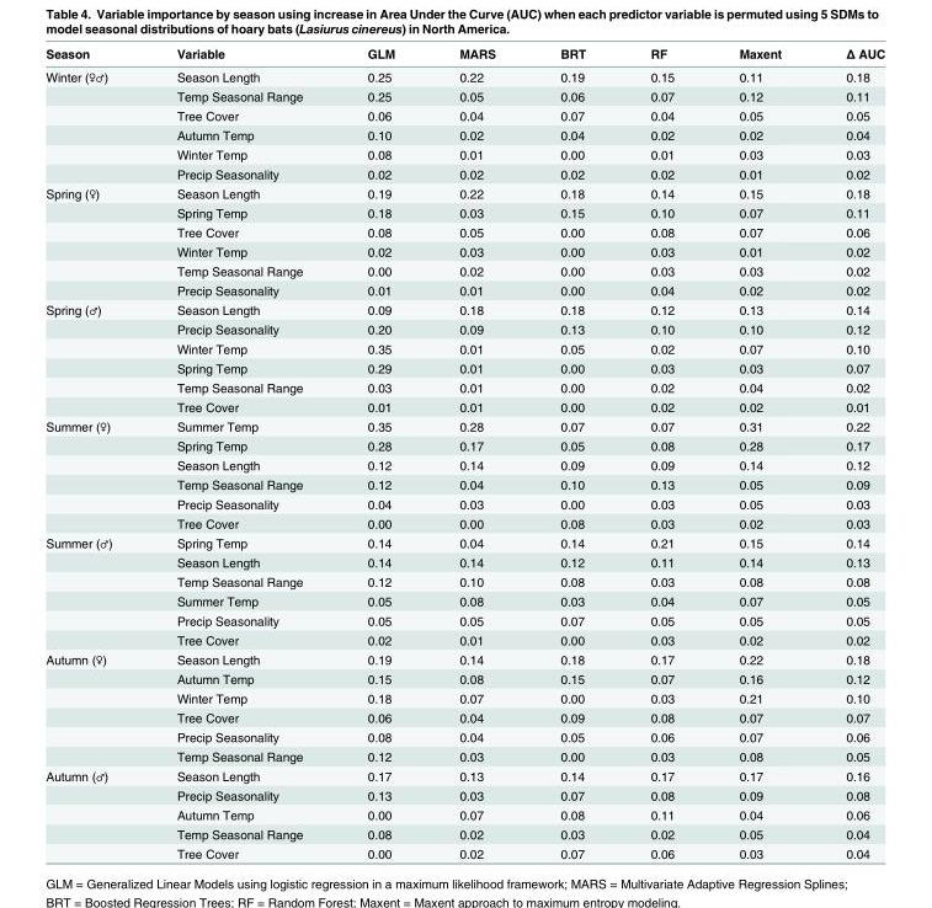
<table><thead><tr><td>Season</td><td>Variable</td><td>GLM</td><td>MARS</td><td>BRT</td><td>RF</td><td>Maxent</td><td>Δ AUC</td></tr></thead><tbody><tr><td rowspan="6">Winter (♀♂)</td><td>Season Length</td><td>0.25</td><td>0.22</td><td>0.19</td><td>0.15</td><td>0.11</td><td>0.18</td></tr><tr><td>Temp Seasonal Range</td><td>0.25</td><td>0.05</td><td>0.06</td><td>0.07</td><td>0.12</td><td>0.11</td></tr><tr><td>Tree Cover</td><td>0.06</td><td>0.04</td><td>0.07</td><td>0.04</td><td>0.05</td><td>0.05</td></tr><tr><td>Autumn Temp</td><td>0.10</td><td>0.02</td><td>0.04</td><td>0.02</td><td>0.02</td><td>0.04</td></tr><tr><td>Winter Temp</td><td>0.08</td><td>0.01</td><td>0.00</td><td>0.01</td><td>0.03</td><td>0.03</td></tr><tr><td>Precip Seasonality</td><td>0.02</td><td>0.02</td><td>0.02</td><td>0.02</td><td>0.01</td><td>0.02</td></tr><tr><td rowspan="6">Spring (♀)</td><td>Season Length</td><td>0.19</td><td>0.22</td><td>0.18</td><td>0.14</td><td>0.15</td><td>0.18</td></tr><tr><td>Spring Temp</td><td>0.18</td><td>0.03</td><td>0.15</td><td>0.10</td><td>0.07</td><td>0.11</td></tr><tr><td>Tree Cover</td><td>0.08</td><td>0.05</td><td>0.00</td><td>0.08</td><td>0.07</td><td>0.06</td></tr><tr><td>Winter Temp</td><td>0.02</td><td>0.03</td><td>0.00</td><td>0.03</td><td>0.01</td><td>0.02</td></tr><tr><td>Temp Seasonal Range</td><td>0.00</td><td>0.02</td><td>0.00</td><td>0.03</td><td>0.03</td><td>0.02</td></tr><tr><td>Precip Seasonality</td><td>0.01</td><td>0.01</td><td>0.00</td><td>0.04</td><td>0.02</td><td>0.02</td></tr><tr><td rowspan="6">Spring (♂)</td><td>Season Length</td><td>0.09</td><td>0.18</td><td>0.18</td><td>0.12</td><td>0.13</td><td>0.14</td></tr><tr><td>Precip Seasonality</td><td>0.20</td><td>0.09</td><td>0.13</td><td>0.10</td><td>0.10</td><td>0.12</td></tr><tr><td>Winter Temp</td><td>0.35</td><td>0.01</td><td>0.05</td><td>0.02</td><td>0.07</td><td>0.10</td></tr><tr><td>Spring Temp</td><td>0.29</td><td>0.01</td><td>0.00</td><td>0.03</td><td>0.03</td><td>0.07</td></tr><tr><td>Temp Seasonal Range</td><td>0.03</td><td>0.01</td><td>0.00</td><td>0.02</td><td>0.04</td><td>0.02</td></tr><tr><td>Tree Cover</td><td>0.01</td><td>0.01</td><td>0.00</td><td>0.02</td><td>0.02</td><td>0.01</td></tr><tr><td rowspan="6">Summer (♀)</td><td>Summer Temp</td><td>0.35</td><td>0.28</td><td>0.07</td><td>0.07</td><td>0.31</td><td>0.22</td></tr><tr><td>Spring Temp</td><td>0.28</td><td>0.17</td><td>0.05</td><td>0.08</td><td>0.28</td><td>0.17</td></tr><tr><td>Season Length</td><td>0.12</td><td>0.14</td><td>0.09</td><td>0.09</td><td>0.14</td><td>0.12</td></tr><tr><td>Temp Seasonal Range</td><td>0.12</td><td>0.04</td><td>0.10</td><td>0.13</td><td>0.05</td><td>0.09</td></tr><tr><td>Precip Seasonality</td><td>0.04</td><td>0.03</td><td>0.00</td><td>0.03</td><td>0.05</td><td>0.03</td></tr><tr><td>Tree Cover</td><td>0.00</td><td>0.00</td><td>0.08</td><td>0.03</td><td>0.02</td><td>0.03</td></tr><tr><td rowspan="6">Summer (♂)</td><td>Spring Temp</td><td>0.14</td><td>0.04</td><td>0.14</td><td>0.21</td><td>0.15</td><td>0.14</td></tr><tr><td>Season Length</td><td>0.14</td><td>0.14</td><td>0.12</td><td>0.11</td><td>0.14</td><td>0.13</td></tr><tr><td>Temp Seasonal Range</td><td>0.12</td><td>0.10</td><td>0.08</td><td>0.03</td><td>0.08</td><td>0.08</td></tr><tr><td>Summer Temp</td><td>0.05</td><td>0.08</td><td>0.03</td><td>0.04</td><td>0.07</td><td>0.05</td></tr><tr><td>Precip Seasonality</td><td>0.05</td><td>0.05</td><td>0.07</td><td>0.05</td><td>0.05</td><td>0.05</td></tr><tr><td>Tree Cover</td><td>0.02</td><td>0.01</td><td>0.00</td><td>0.03</td><td>0.02</td><td>0.02</td></tr><tr><td rowspan="6">Autumn (♀)</td><td>Season Length</td><td>0.19</td><td>0.14</td><td>0.18</td><td>0.17</td><td>0.22</td><td>0.18</td></tr><tr><td>Autumn Temp</td><td>0.15</td><td>0.08</td><td>0.15</td><td>0.07</td><td>0.16</td><td>0.12</td></tr><tr><td>Winter Temp</td><td>0.18</td><td>0.07</td><td>0.00</td><td>0.03</td><td>0.21</td><td>0.10</td></tr><tr><td>Tree Cover</td><td>0.06</td><td>0.04</td><td>0.09</td><td>0.08</td><td>0.07</td><td>0.07</td></tr><tr><td>Precip Seasonality</td><td>0.08</td><td>0.04</td><td>0.05</td><td>0.06</td><td>0.07</td><td>0.06</td></tr><tr><td>Temp Seasonal Range</td><td>0.12</td><td>0.03</td><td>0.00</td><td>0.03</td><td>0.08</td><td>0.05</td></tr><tr><td rowspan="5">Autumn (♂)</td><td>Season Length</td><td>0.17</td><td>0.13</td><td>0.14</td><td>0.17</td><td>0.17</td><td>0.16</td></tr><tr><td>Precip Seasonality</td><td>0.13</td><td>0.03</td><td>0.07</td><td>0.08</td><td>0.09</td><td>0.08</td></tr><tr><td>Autumn Temp</td><td>0.00</td><td>0.07</td><td>0.08</td><td>0.11</td><td>0.04</td><td>0.06</td></tr><tr><td>Temp Seasonal Range</td><td>0.08</td><td>0.02</td><td>0.03</td><td>0.02</td><td>0.05</td><td>0.04</td></tr><tr><td>Tree Cover</td><td>0.00</td><td>0.02</td><td>0.07</td><td>0.06</td><td>0.03</td><td>0.04</td></tr></tbody></table>